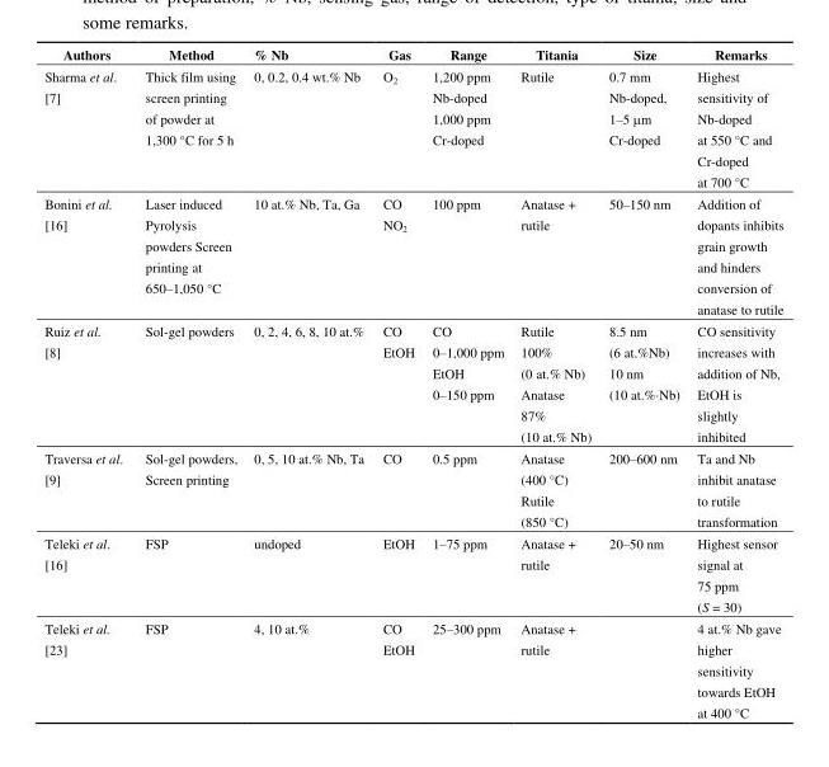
<table><thead><tr><td>Authors</td><td>Method</td><td>% Nb</td><td>Gas</td><td>Range</td><td>Titania</td><td>Size</td><td>Remarks</td></tr></thead><tbody><tr><td>Sharma et al. [7]</td><td>Thick film using screen printing of powder at 1,300 °C for 5 h</td><td>0, 0.2, 0.4 wt.% Nb</td><td>O<sub>2</sub></td><td>1,200 ppm Nb-doped 1,000 ppm Cr-doped</td><td>Rutile</td><td>0.7 mm Nb-doped, 1–5 μm Cr-doped</td><td>Highest sensitivity of Nb-doped at 550 °C and Cr-doped at 700 °C</td></tr><tr><td>Bonini et al. [16]</td><td>Laser induced Pyrolysis powders Screen printing at 650–1,050 °C</td><td>10 at.% Nb, Ta, Ga</td><td>CO NO<sub>2</sub></td><td>100 ppm</td><td>Anatase + rutile</td><td>50–150 nm</td><td>Addition of dopants inhibits grain growth and hinders conversion of anatase to rutile</td></tr><tr><td>Ruiz et al. [8]</td><td>Sol-gel powders</td><td>0, 2, 4, 6, 8, 10 at.%</td><td>CO EtOH</td><td>CO 0–1,000 ppm EtOH 0–150 ppm</td><td>Rutile 100% (0 at.% Nb) Anatase 87% (10 at.% Nb)</td><td>8.5 nm (6 at.%Nb) 10 nm (10 at.%·Nb)</td><td>CO sensitivity increases with addition of Nb, EtOH is slightly inhibited</td></tr><tr><td>Traversa et al. [9]</td><td>Sol-gel powders, Screen printing</td><td>0, 5, 10 at.% Nb, Ta</td><td>CO</td><td>0.5 ppm</td><td>Anatase (400 °C) Rutile (850 °C)</td><td>200–600 nm</td><td>Ta and Nb inhibit anatase to rutile transformation</td></tr><tr><td>Teleki et al. [16]</td><td>FSP</td><td>undoped</td><td>EtOH</td><td>1–75 ppm</td><td>Anatase + rutile</td><td>20–50 nm</td><td>Highest sensor signal at 75 ppm (S = 30)</td></tr><tr><td>Teleki et al. [23]</td><td>FSP</td><td>4, 10 at.%</td><td>CO EtOH</td><td>25–300 ppm</td><td>Anatase + rutile</td><td></td><td>4 at.% Nb gave higher sensitivity towards EtOH at 400 °C</td></tr></tbody></table>